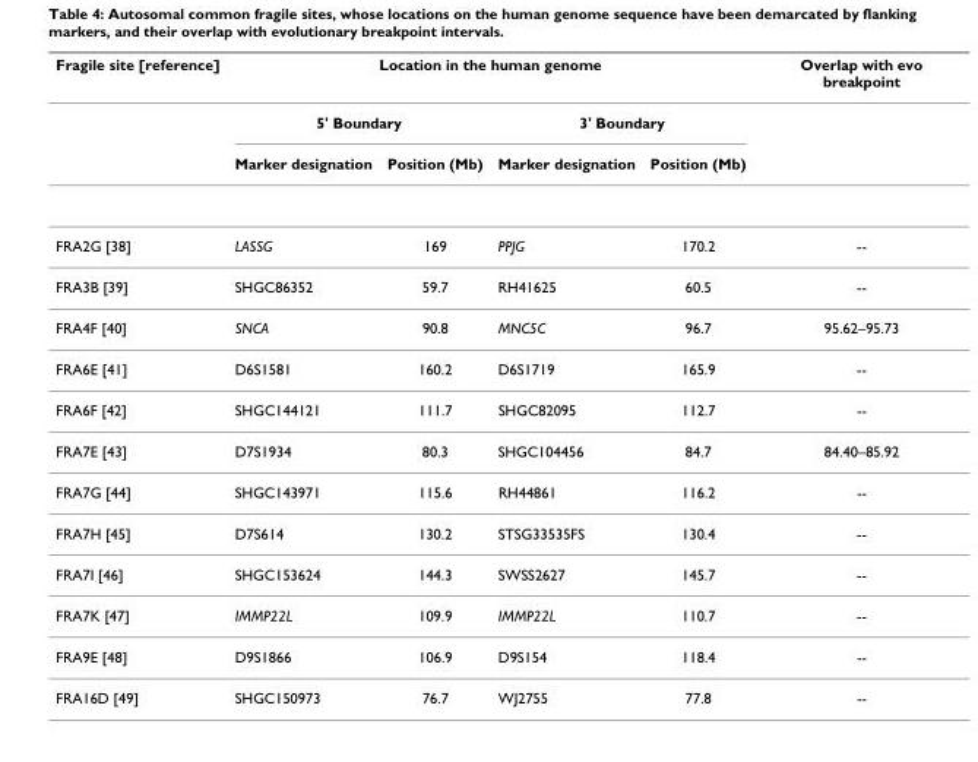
<table><thead><tr><td rowspan="3">Fragile site [reference]</td><td colspan="4">Location in the human genome</td><td rowspan="3">Overlap with evo breakpoint</td></tr><tr><td colspan="2">5&#x27; Boundary</td><td colspan="2">3&#x27; Boundary</td></tr><tr><td>Marker designation</td><td>Position (Mb)</td><td>Marker designation</td><td>Position (Mb)</td></tr></thead><tbody><tr><td>FRA2G [38]</td><td>LASSG</td><td>169</td><td>PPJG</td><td>170.2</td><td>--</td></tr><tr><td>FRA3B [39]</td><td>SHGC86352</td><td>59.7</td><td>RH41625</td><td>60.5</td><td>--</td></tr><tr><td>FRA4F [40]</td><td>SNCA</td><td>90.8</td><td>MNC5C</td><td>96.7</td><td>95.62–95.73</td></tr><tr><td>FRA6E [41]</td><td>D6S1581</td><td>160.2</td><td>D6S1719</td><td>165.9</td><td>--</td></tr><tr><td>FRA6F [42]</td><td>SHGC144121</td><td>111.7</td><td>SHGC82095</td><td>112.7</td><td>--</td></tr><tr><td>FRA7E [43]</td><td>D7S1934</td><td>80.3</td><td>SHGC104456</td><td>84.7</td><td>84.40–85.92</td></tr><tr><td>FRA7G [44]</td><td>SHGC143971</td><td>115.6</td><td>RH44861</td><td>116.2</td><td>--</td></tr><tr><td>FRA7H [45]</td><td>D7S614</td><td>130.2</td><td>STSG33535FS</td><td>130.4</td><td>--</td></tr><tr><td>FRA7I [46]</td><td>SHGC153624</td><td>144.3</td><td>SWSS2627</td><td>145.7</td><td>--</td></tr><tr><td>FRA7K [47]</td><td>IMMP22L</td><td>109.9</td><td>IMMP22L</td><td>110.7</td><td>--</td></tr><tr><td>FRA9E [48]</td><td>D9S1866</td><td>106.9</td><td>D9S154</td><td>118.4</td><td>--</td></tr><tr><td>FRA16D [49]</td><td>SHGC150973</td><td>76.7</td><td>WJ2755</td><td>77.8</td><td>--</td></tr></tbody></table>